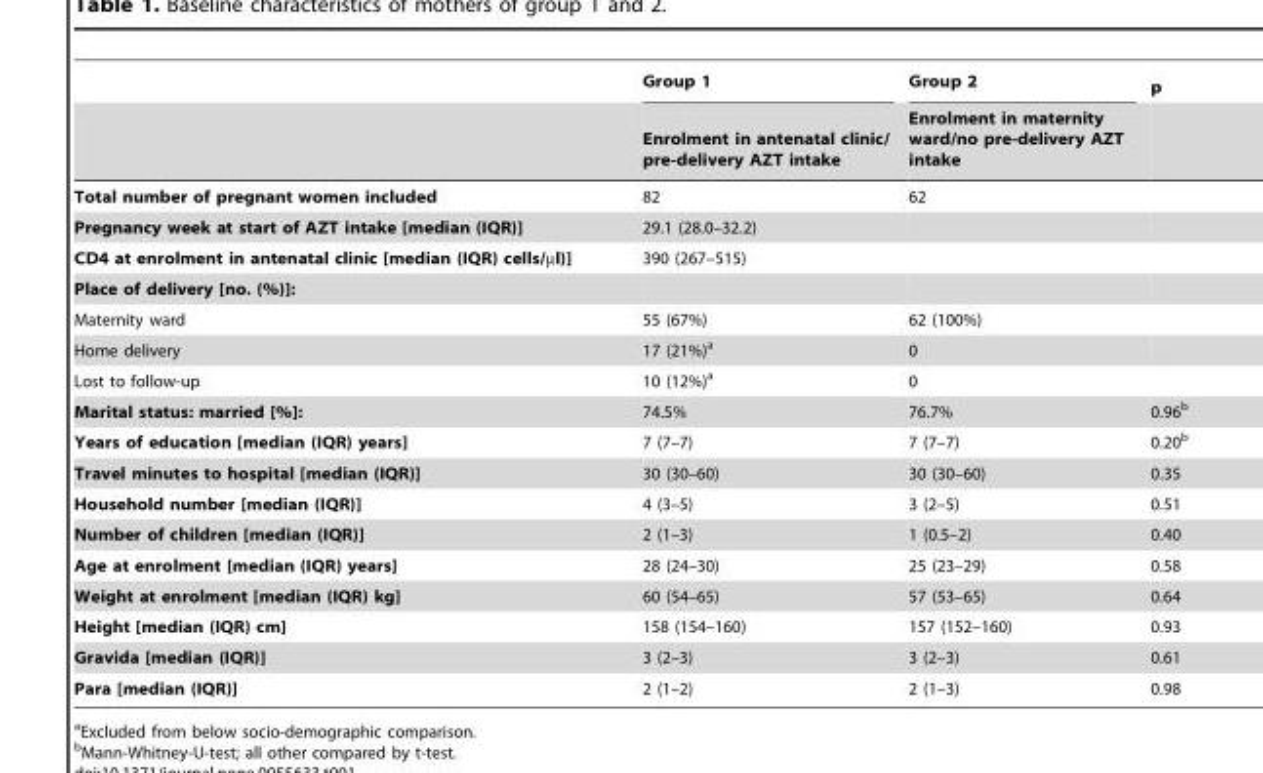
<table><thead><tr><td rowspan="2"></td><td rowspan="2">Group 1 Enrolment in antenatal clinic/ pre-delivery AZT intake</td><td rowspan="2">Group 2 Enrolment in maternity ward/no pre-delivery AZT intake</td><td rowspan="2">p</td></tr><tr></tr></thead><tbody><tr><td>Total number of pregnant women included</td><td>82</td><td>62</td><td></td></tr><tr><td>Pregnancy week at start of AZT intake [median (IQR)]</td><td>29.1 (28.0–32.2)</td><td></td><td></td></tr><tr><td>CD4 at enrolment in antenatal clinic [median (IQR) cells/µl)]</td><td>390 (267–515)</td><td></td><td></td></tr><tr><td colspan="4">Place of delivery [no. (%)]:</td></tr><tr><td>Maternity ward</td><td>55 (67%)</td><td>62 (100%)</td><td></td></tr><tr><td>Home delivery</td><td>17 (21%)<sup>a</sup></td><td>0</td><td></td></tr><tr><td>Lost to follow-up</td><td>10 (12%)<sup>a</sup></td><td>0</td><td></td></tr><tr><td>Marital status: married [%]:</td><td>74.5%</td><td>76.7%</td><td>0.96<sup>b</sup></td></tr><tr><td>Years of education [median (IQR) years]</td><td>7 (7–7)</td><td>7 (7–7)</td><td>0.20<sup>b</sup></td></tr><tr><td>Travel minutes to hospital [median (IQR)]</td><td>30 (30–60)</td><td>30 (30–60)</td><td>0.35</td></tr><tr><td>Household number [median (IQR)]</td><td>4 (3–5)</td><td>3 (2–5)</td><td>0.51</td></tr><tr><td>Number of children [median (IQR)]</td><td>2 (1–3)</td><td>1 (0.5–2)</td><td>0.40</td></tr><tr><td>Age at enrolment [median (IQR) years]</td><td>28 (24–30)</td><td>25 (23–29)</td><td>0.58</td></tr><tr><td>Weight at enrolment [median (IQR) kg]</td><td>60 (54–65)</td><td>57 (53–65)</td><td>0.64</td></tr><tr><td>Height [median (IQR) cm]</td><td>158 (154–160)</td><td>157 (152–160)</td><td>0.93</td></tr><tr><td>Gravida [median (IQR)]</td><td>3 (2–3)</td><td>3 (2–3)</td><td>0.61</td></tr><tr><td>Para [median (IQR)]</td><td>2 (1–2)</td><td>2 (1–3)</td><td>0.98</td></tr></tbody></table>